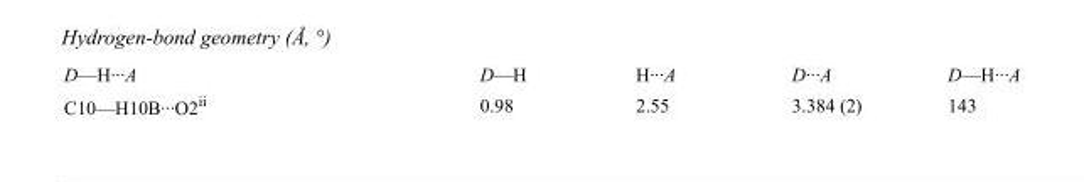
<table><tbody><tr><td>D—H···A</td><td>D—H</td><td>H···A</td><td>D···A</td><td>D—H···A</td></tr><tr><td>C10—H10B···O2<sup>ii</sup></td><td>0.98</td><td>2.55</td><td>3.384 (2)</td><td>143</td></tr></tbody></table>